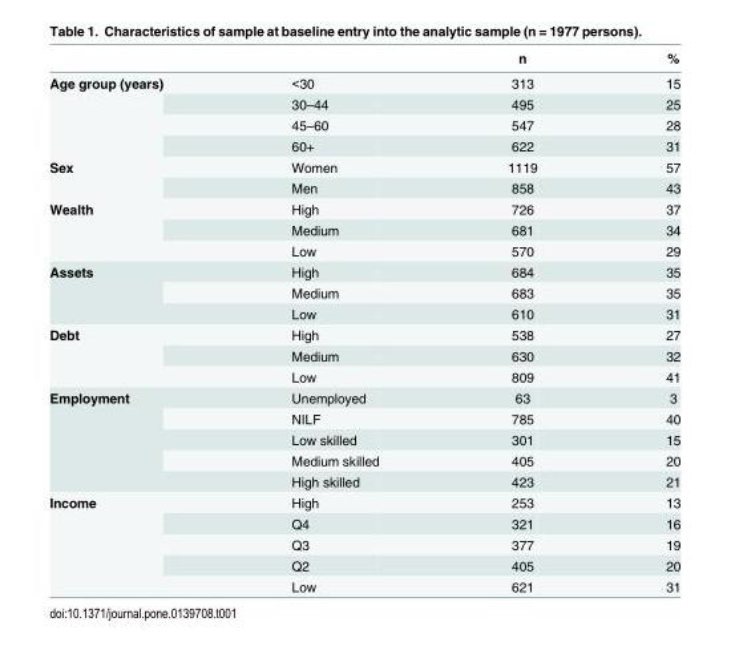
<table><thead><tr><td></td><td></td><td>n</td><td>%</td></tr></thead><tbody><tr><td rowspan="4">Age group (years)</td><td>&lt;30</td><td>313</td><td>15</td></tr><tr><td>30–44</td><td>495</td><td>25</td></tr><tr><td>45–60</td><td>547</td><td>28</td></tr><tr><td>60+</td><td>622</td><td>31</td></tr><tr><td rowspan="2">Sex</td><td>Women</td><td>1119</td><td>57</td></tr><tr><td>Men</td><td>858</td><td>43</td></tr><tr><td rowspan="3">Wealth</td><td>High</td><td>726</td><td>37</td></tr><tr><td>Medium</td><td>681</td><td>34</td></tr><tr><td>Low</td><td>570</td><td>29</td></tr><tr><td rowspan="3">Assets</td><td>High</td><td>684</td><td>35</td></tr><tr><td>Medium</td><td>683</td><td>35</td></tr><tr><td>Low</td><td>610</td><td>31</td></tr><tr><td rowspan="3">Debt</td><td>High</td><td>538</td><td>27</td></tr><tr><td>Medium</td><td>630</td><td>32</td></tr><tr><td>Low</td><td>809</td><td>41</td></tr><tr><td rowspan="5">Employment</td><td>Unemployed</td><td>63</td><td>3</td></tr><tr><td>NILF</td><td>785</td><td>40</td></tr><tr><td>Low skilled</td><td>301</td><td>15</td></tr><tr><td>Medium skilled</td><td>405</td><td>20</td></tr><tr><td>High skilled</td><td>423</td><td>21</td></tr><tr><td rowspan="5">Income</td><td>High</td><td>253</td><td>13</td></tr><tr><td>Q4</td><td>321</td><td>16</td></tr><tr><td>Q3</td><td>377</td><td>19</td></tr><tr><td>Q2</td><td>405</td><td>20</td></tr><tr><td>Low</td><td>621</td><td>31</td></tr></tbody></table>